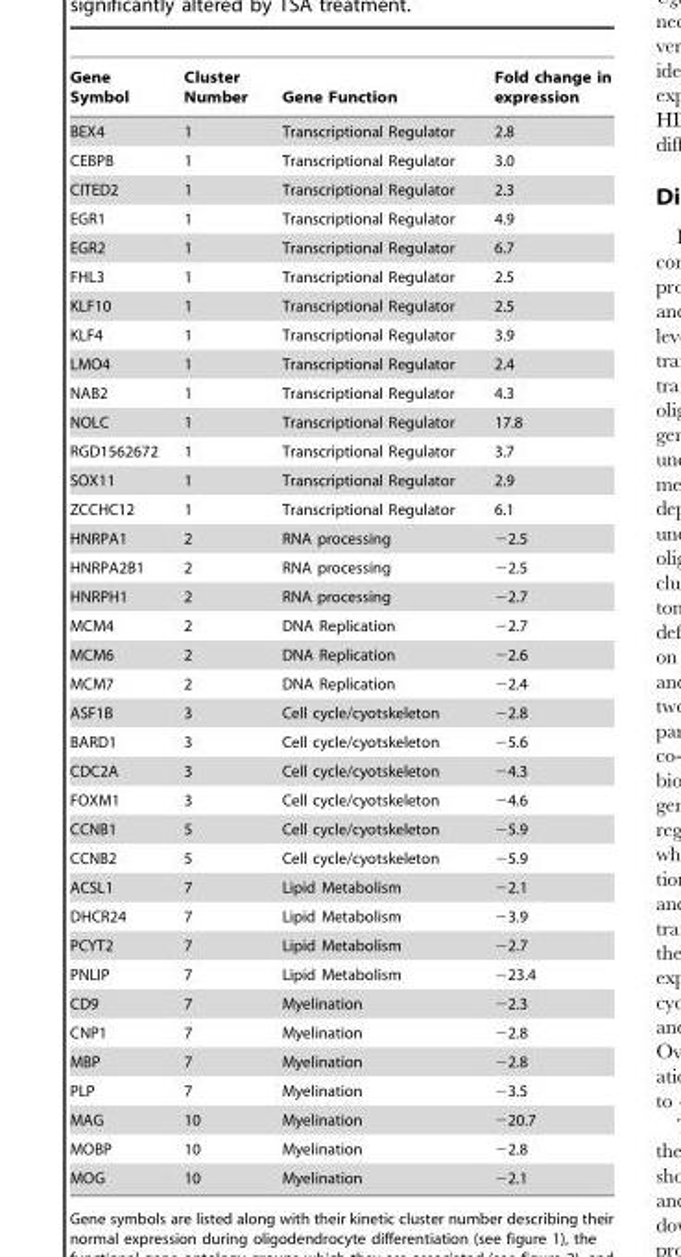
<table><thead><tr><td>Gene Symbol</td><td>Cluster Number</td><td>Gene Function</td><td>Fold change in expression</td></tr></thead><tbody><tr><td>BEX4</td><td>1</td><td>Transcriptional Regulator</td><td>2.8</td></tr><tr><td>CEBPB</td><td>1</td><td>Transcriptional Regulator</td><td>3.0</td></tr><tr><td>CITED2</td><td>1</td><td>Transcriptional Regulator</td><td>2.3</td></tr><tr><td>EGR1</td><td>1</td><td>Transcriptional Regulator</td><td>4.9</td></tr><tr><td>EGR2</td><td>1</td><td>Transcriptional Regulator</td><td>6.7</td></tr><tr><td>FHL3</td><td>1</td><td>Transcriptional Regulator</td><td>2.5</td></tr><tr><td>KLF10</td><td>1</td><td>Transcriptional Regulator</td><td>2.5</td></tr><tr><td>KLF4</td><td>1</td><td>Transcriptional Regulator</td><td>3.9</td></tr><tr><td>LMO4</td><td>1</td><td>Transcriptional Regulator</td><td>2.4</td></tr><tr><td>NAB2</td><td>1</td><td>Transcriptional Regulator</td><td>4.3</td></tr><tr><td>NOLC</td><td>1</td><td>Transcriptional Regulator</td><td>17.8</td></tr><tr><td>RGD1562672</td><td>1</td><td>Transcriptional Regulator</td><td>3.7</td></tr><tr><td>SOX11</td><td>1</td><td>Transcriptional Regulator</td><td>2.9</td></tr><tr><td>ZCCHC12</td><td>1</td><td>Transcriptional Regulator</td><td>6.1</td></tr><tr><td>HNRPA1</td><td>2</td><td>RNA processing</td><td>−2.5</td></tr><tr><td>HNRPA2B1</td><td>2</td><td>RNA processing</td><td>−2.5</td></tr><tr><td>HNRPH1</td><td>2</td><td>RNA processing</td><td>−2.7</td></tr><tr><td>MCM4</td><td>2</td><td>DNA Replication</td><td>−2.7</td></tr><tr><td>MCM6</td><td>2</td><td>DNA Replication</td><td>−2.6</td></tr><tr><td>MCM7</td><td>2</td><td>DNA Replication</td><td>−2.4</td></tr><tr><td>ASF1B</td><td>3</td><td>Cell cycle/cyotskeleton</td><td>−2.8</td></tr><tr><td>BARD1</td><td>3</td><td>Cell cycle/cyotskeleton</td><td>−5.6</td></tr><tr><td>CDC2A</td><td>3</td><td>Cell cycle/cyotskeleton</td><td>−4.3</td></tr><tr><td>FOXM1</td><td>3</td><td>Cell cycle/cyotskeleton</td><td>−4.6</td></tr><tr><td>CCNB1</td><td>5</td><td>Cell cycle/cyotskeleton</td><td>−5.9</td></tr><tr><td>CCNB2</td><td>5</td><td>Cell cycle/cyotskeleton</td><td>−5.9</td></tr><tr><td>ACSL1</td><td>7</td><td>Lipid Metabolism</td><td>−2.1</td></tr><tr><td>DHCR24</td><td>7</td><td>Lipid Metabolism</td><td>−3.9</td></tr><tr><td>PCYT2</td><td>7</td><td>Lipid Metabolism</td><td>−2.7</td></tr><tr><td>PNLIP</td><td>7</td><td>Lipid Metabolism</td><td>−23.4</td></tr><tr><td>CD9</td><td>7</td><td>Myelination</td><td>−2.3</td></tr><tr><td>CNP1</td><td>7</td><td>Myelination</td><td>−2.8</td></tr><tr><td>MBP</td><td>7</td><td>Myelination</td><td>−2.8</td></tr><tr><td>PLP</td><td>7</td><td>Myelination</td><td>−3.5</td></tr><tr><td>MAG</td><td>10</td><td>Myelination</td><td>−20.7</td></tr><tr><td>MOBP</td><td>10</td><td>Myelination</td><td>−2.8</td></tr><tr><td>MOG</td><td>10</td><td>Myelination</td><td>−2.1</td></tr></tbody></table>